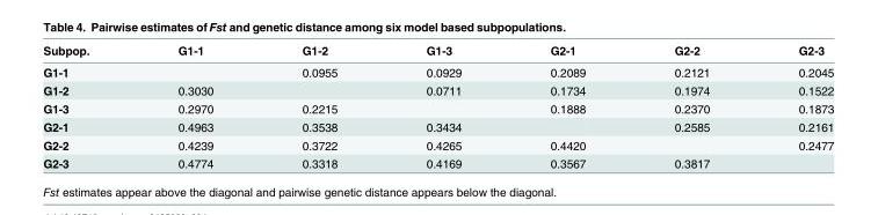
<table><thead><tr><td>Subpop.</td><td>G1-1</td><td>G1-2</td><td>G1-3</td><td>G2-1</td><td>G2-2</td><td>G2-3</td></tr></thead><tbody><tr><td>G1-1</td><td></td><td>0.0955</td><td>0.0929</td><td>0.2089</td><td>0.2121</td><td>0.2045</td></tr><tr><td>G1-2</td><td>0.3030</td><td></td><td>0.0711</td><td>0.1734</td><td>0.1974</td><td>0.1522</td></tr><tr><td>G1-3</td><td>0.2970</td><td>0.2215</td><td></td><td>0.1888</td><td>0.2370</td><td>0.1873</td></tr><tr><td>G2-1</td><td>0.4963</td><td>0.3538</td><td>0.3434</td><td></td><td>0.2585</td><td>0.2161</td></tr><tr><td>G2-2</td><td>0.4239</td><td>0.3722</td><td>0.4265</td><td>0.4420</td><td></td><td>0.2477</td></tr><tr><td>G2-3</td><td>0.4774</td><td>0.3318</td><td>0.4169</td><td>0.3567</td><td>0.3817</td><td></td></tr></tbody></table>